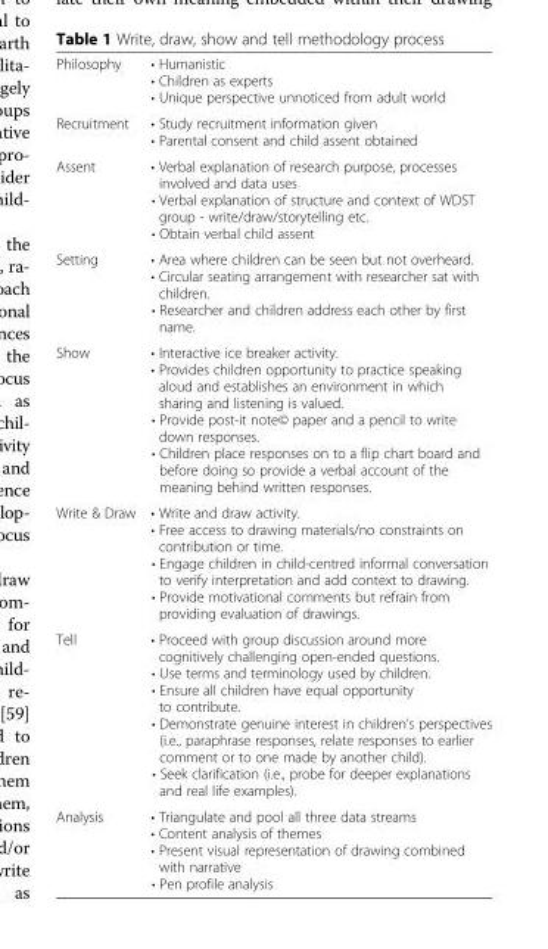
<table><tbody><tr><td>Philosophy</td><td>• Humanistic • Children as experts • Unique perspective unnoticed from adult world</td></tr><tr><td>Recruitment</td><td>• Study recruitment information given • Parental consent and child assent obtained</td></tr><tr><td>Assent</td><td>• Verbal explanation of research purpose, processes involved and data uses • Verbal explanation of structure and context of WDST group - write/draw/storytelling etc. • Obtain verbal child assent</td></tr><tr><td>Setting</td><td>• Area where children can be seen but not overheard. • Circular seating arrangement with researcher sat with children. • Researcher and children address each other by first name.</td></tr><tr><td>Show</td><td>• Interactive ice breaker activity. • Provides children opportunity to practice speaking aloud and establishes an environment in which sharing and listening is valued. • Provide post-it note© paper and a pencil to write down responses. • Children place responses on to a flip chart board and before doing so provide a verbal account of the meaning behind written responses.</td></tr><tr><td>Write &amp; Draw</td><td>• Write and draw activity. • Free access to drawing materials/no constraints on contribution or time. • Engage children in child-centred informal conversation to verify interpretation and add context to drawing. • Provide motivational comments but refrain from providing evaluation of drawings.</td></tr><tr><td>Tell</td><td>• Proceed with group discussion around more cognitively challenging open-ended questions. • Use terms and terminology used by children. • Ensure all children have equal opportunity to contribute. • Demonstrate genuine interest in children’s perspectives (i.e., paraphrase responses, relate responses to earlier comment or to one made by another child). • Seek clarification (i.e., probe for deeper explanations and real life examples).</td></tr><tr><td>Analysis</td><td>• Triangulate and pool all three data streams • Content analysis of themes • Present visual representation of drawing combined with narrative • Pen profile analysis</td></tr></tbody></table>